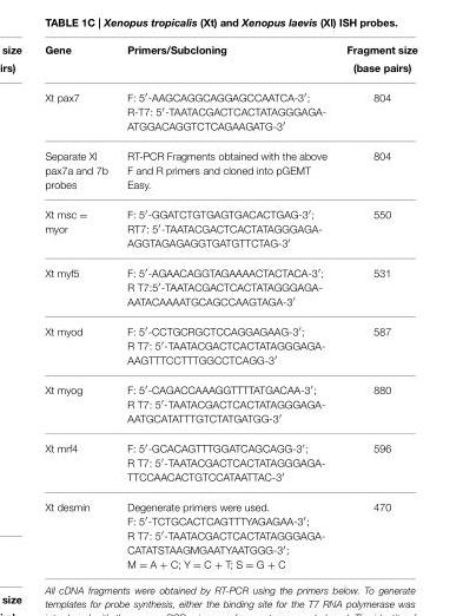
<table><thead><tr><td>Gene</td><td>Primers/Subcloning</td><td>Fragment size (base pairs)</td></tr></thead><tbody><tr><td>Xt pax7</td><td>F: 5′-AAGCAGGCAGGAGCCAATCA-3′; R-T7: 5′-TAATACGACTCACTATAGGGAGA- ATGGACAGGTCTCAGAAGATG-3′</td><td>804</td></tr><tr><td>Separate Xl pax7a and 7b probes</td><td>RT-PCR Fragments obtained with the above F and R primers and cloned into pGEMT Easy.</td><td>804</td></tr><tr><td>Xt msc = myor</td><td>F: 5′-GGATCTGTGAGTGACACTGAG-3′; RT7: 5′-TAATACGACTCACTATAGGGAGA- AGGTAGAGAGGTGATGTTCTAG-3′</td><td>550</td></tr><tr><td>Xt myf5</td><td>F: 5′-AGAACAGGTAGAAAACTACTACA-3′; R T7:5′-TAATACGACTCACTATAGGGAGA- AATACAAAATGCAGCCAAGTAGA-3′</td><td>531</td></tr><tr><td>Xt myod</td><td>F: 5′-CCTGCRGCTCCAGGAGAAG-3′; R T7: 5′-TAATACGACTCACTATAGGGAGA- AAGTTTCCTTTGGCCTCAGG-3′</td><td>587</td></tr><tr><td>Xt myog</td><td>F: 5′-CAGACCAAAGGTTTTATGACAA-3′; R T7: 5′-TAATACGACTCACTATAGGGAGA- AATGCATATTTGTCTATGATGG-3′</td><td>880</td></tr><tr><td>Xt mrf4</td><td>F: 5′-GCACAGTTTGGATCAGCAGG-3′; R T7: 5′-TAATACGACTCACTATAGGGAGA- TTCCAACACTGTCCATAATTAC-3′</td><td>596</td></tr><tr><td>Xt desmin</td><td>Degenerate primers were used. F: 5′-TCTGCACTCAGTTTYAGAGAA-3′; R T7: 5′-TAATACGACTCACTATAGGGAGA- CATATSTAAGMGAATYAATGGG-3′; M = A + C; Y = C + T; S = G + C</td><td>470</td></tr></tbody></table>